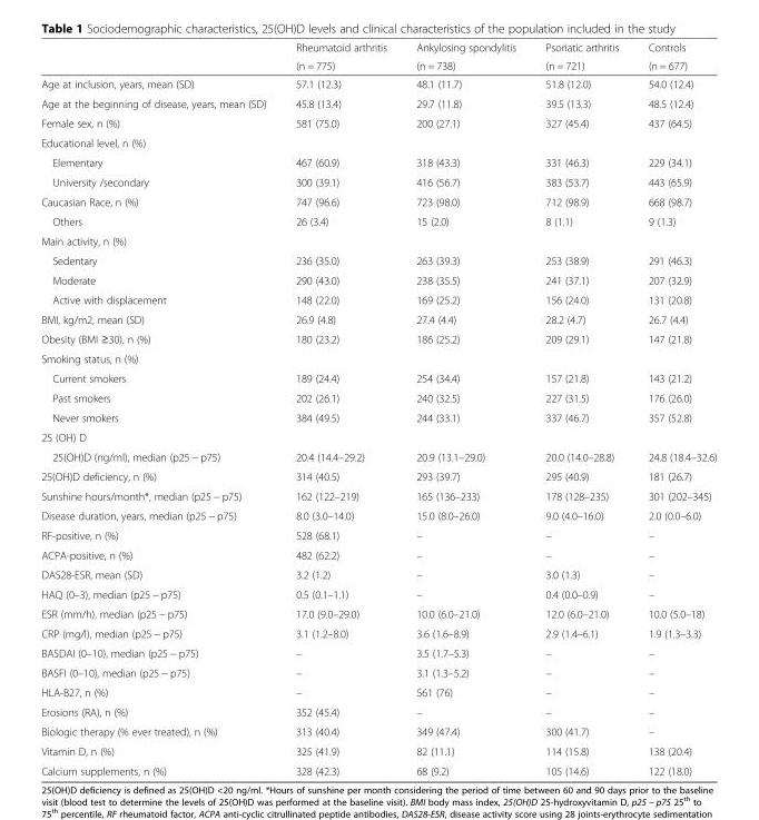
<table><thead><tr><td rowspan="2"></td><td rowspan="2">Rheumatoid arthritis (n = 775)</td><td rowspan="2">Ankylosing spondylitis (n = 738)</td><td rowspan="2">Psoriatic arthritis (n = 721)</td><td rowspan="2">Controls (n = 677)</td></tr><tr></tr></thead><tbody><tr><td>Age at inclusion, years, mean (SD)</td><td>57.1 (12.3)</td><td>48.1 (11.7)</td><td>51.8 (12.0)</td><td>54.0 (12.4)</td></tr><tr><td>Age at the beginning of disease, years, mean (SD)</td><td>45.8 (13.4)</td><td>29.7 (11.8)</td><td>39.5 (13.3)</td><td>48.5 (12.4)</td></tr><tr><td>Female sex, n (%)</td><td>581 (75.0)</td><td>200 (27.1)</td><td>327 (45.4)</td><td>437 (64.5)</td></tr><tr><td colspan="5">Educational level, n (%)</td></tr><tr><td>Elementary</td><td>467 (60.9)</td><td>318 (43.3)</td><td>331 (46.3)</td><td>229 (34.1)</td></tr><tr><td>University /secondary</td><td>300 (39.1)</td><td>416 (56.7)</td><td>383 (53.7)</td><td>443 (65.9)</td></tr><tr><td>Caucasian Race, n (%)</td><td>747 (96.6)</td><td>723 (98.0)</td><td>712 (98.9)</td><td>668 (98.7)</td></tr><tr><td>Others</td><td>26 (3.4)</td><td>15 (2.0)</td><td>8 (1.1)</td><td>9 (1.3)</td></tr><tr><td colspan="5">Main activity, n (%)</td></tr><tr><td>Sedentary</td><td>236 (35.0)</td><td>263 (39.3)</td><td>253 (38.9)</td><td>291 (46.3)</td></tr><tr><td>Moderate</td><td>290 (43.0)</td><td>238 (35.5)</td><td>241 (37.1)</td><td>207 (32.9)</td></tr><tr><td>Active with displacement</td><td>148 (22.0)</td><td>169 (25.2)</td><td>156 (24.0)</td><td>131 (20.8)</td></tr><tr><td>BMI, kg/m2, mean (SD)</td><td>26.9 (4.8)</td><td>27.4 (4.4)</td><td>28.2 (4.7)</td><td>26.7 (4.4)</td></tr><tr><td>Obesity (BMI ≥30), n (%)</td><td>180 (23.2)</td><td>186 (25.2)</td><td>209 (29.1)</td><td>147 (21.8)</td></tr><tr><td colspan="5">Smoking status, n (%)</td></tr><tr><td>Current smokers</td><td>189 (24.4)</td><td>254 (34.4)</td><td>157 (21.8)</td><td>143 (21.2)</td></tr><tr><td>Past smokers</td><td>202 (26.1)</td><td>240 (32.5)</td><td>227 (31.5)</td><td>176 (26.0)</td></tr><tr><td>Never smokers</td><td>384 (49.5)</td><td>244 (33.1)</td><td>337 (46.7)</td><td>357 (52.8)</td></tr><tr><td colspan="5">25 (OH) D</td></tr><tr><td>25(OH)D (ng/ml), median (p25 − p75)</td><td>20.4 (14.4–29.2)</td><td>20.9 (13.1–29.0)</td><td>20.0 (14.0–28.8)</td><td>24.8 (18.4–32.6)</td></tr><tr><td>25(OH)D deficiency, n (%)</td><td>314 (40.5)</td><td>293 (39.7)</td><td>295 (40.9)</td><td>181 (26.7)</td></tr><tr><td>Sunshine hours/month*, median (p25 − p75)</td><td>162 (122–219)</td><td>165 (136–233)</td><td>178 (128–235)</td><td>301 (202–345)</td></tr><tr><td>Disease duration, years, median (p25 − p75)</td><td>8.0 (3.0–14.0)</td><td>15.0 (8.0–26.0)</td><td>9.0 (4.0–16.0)</td><td>2.0 (0.0–6.0)</td></tr><tr><td>RF-positive, n (%)</td><td>528 (68.1)</td><td>–</td><td>–</td><td>–</td></tr><tr><td>ACPA-positive, n (%)</td><td>482 (62.2)</td><td>–</td><td>–</td><td>–</td></tr><tr><td>DAS28-ESR, mean (SD)</td><td>3.2 (1.2)</td><td>–</td><td>3.0 (1.3)</td><td>–</td></tr><tr><td>HAQ (0–3), median (p25 − p75)</td><td>0.5 (0.1–1.1)</td><td>–</td><td>0.4 (0.0–0.9)</td><td>–</td></tr><tr><td>ESR (mm/h), median (p25 − p75)</td><td>17.0 (9.0–29.0)</td><td>10.0 (6.0–21.0)</td><td>12.0 (6.0–21.0)</td><td>10.0 (5.0–18)</td></tr><tr><td>CRP (mg/l), median (p25 − p75)</td><td>3.1 (1.2–8.0)</td><td>3.6 (1.6–8.9)</td><td>2.9 (1.4–6.1)</td><td>1.9 (1.3–3.3)</td></tr><tr><td>BASDAI (0–10), median (p25 − p75)</td><td>–</td><td>3.5 (1.7–5.3)</td><td>–</td><td>–</td></tr><tr><td>BASFI (0–10), median (p25 − p75)</td><td>–</td><td>3.1 (1.3–5.2)</td><td>–</td><td>–</td></tr><tr><td>HLA-B27, n (%)</td><td>–</td><td>561 (76)</td><td>–</td><td>–</td></tr><tr><td>Erosions (RA), n (%)</td><td>352 (45.4)</td><td>–</td><td>–</td><td>–</td></tr><tr><td>Biologic therapy (% ever treated), n (%)</td><td>313 (40.4)</td><td>349 (47.4)</td><td>300 (41.7)</td><td>–</td></tr><tr><td>Vitamin D, n (%)</td><td>325 (41.9)</td><td>82 (11.1)</td><td>114 (15.8)</td><td>138 (20.4)</td></tr><tr><td>Calcium supplements, n (%)</td><td>328 (42.3)</td><td>68 (9.2)</td><td>105 (14.6)</td><td>122 (18.0)</td></tr></tbody></table>